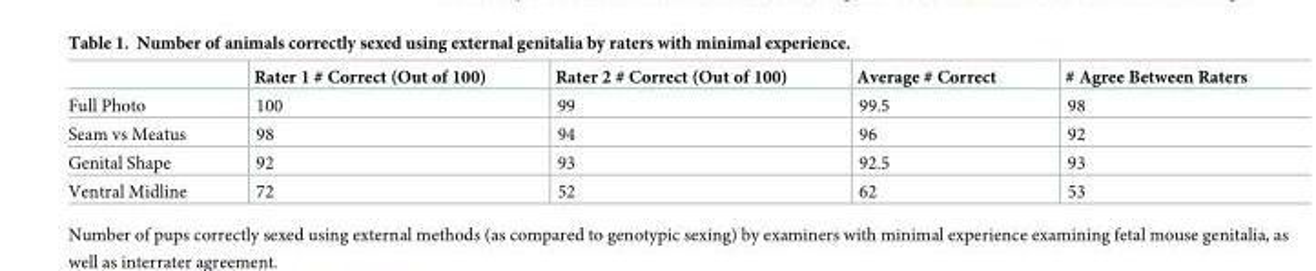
<table><thead><tr><td></td><td>Rater 1 # Correct (Out of 100)</td><td>Rater 2 # Correct (Out of 100)</td><td>Average # Correct</td><td># Agree Between Raters</td></tr></thead><tbody><tr><td>Full Photo</td><td>100</td><td>99</td><td>99.5</td><td>98</td></tr><tr><td>Seam vs Meatus</td><td>98</td><td>94</td><td>96</td><td>92</td></tr><tr><td>Genital Shape</td><td>92</td><td>93</td><td>92.5</td><td>93</td></tr><tr><td>Ventral Midline</td><td>72</td><td>52</td><td>62</td><td>53</td></tr></tbody></table>